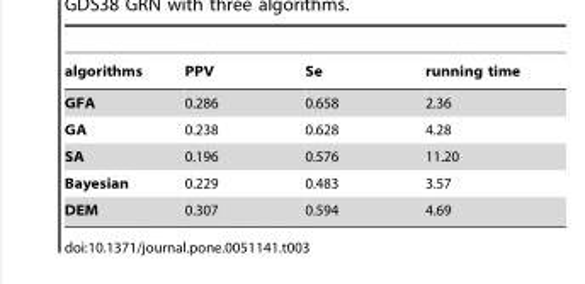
<table><thead><tr><td>algorithms</td><td>PPV</td><td>Se</td><td>running time</td></tr></thead><tbody><tr><td>GFA</td><td>0.286</td><td>0.658</td><td>2.36</td></tr><tr><td>GA</td><td>0.238</td><td>0.628</td><td>4.28</td></tr><tr><td>SA</td><td>0.196</td><td>0.576</td><td>11.20</td></tr><tr><td>Bayesian</td><td>0.229</td><td>0.483</td><td>3.57</td></tr><tr><td>DEM</td><td>0.307</td><td>0.594</td><td>4.69</td></tr></tbody></table>